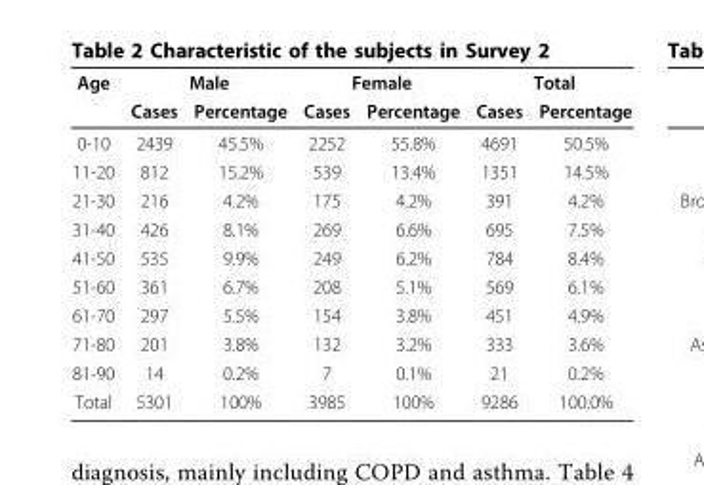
<table><thead><tr><td rowspan="2">Age</td><td colspan="2">Male</td><td colspan="2">Female</td><td colspan="2">Total</td></tr><tr><td>Cases</td><td>Percentage</td><td>Cases</td><td>Percentage</td><td>Cases</td><td>Percentage</td></tr></thead><tbody><tr><td>0-10</td><td>2439</td><td>45.5%</td><td>2252</td><td>55.8%</td><td>4691</td><td>50.5%</td></tr><tr><td>11-20</td><td>812</td><td>15.2%</td><td>539</td><td>13.4%</td><td>1351</td><td>14.5%</td></tr><tr><td>21-30</td><td>216</td><td>4.2%</td><td>175</td><td>4.2%</td><td>391</td><td>4.2%</td></tr><tr><td>31-40</td><td>426</td><td>8.1%</td><td>269</td><td>6.6%</td><td>695</td><td>7.5%</td></tr><tr><td>41-50</td><td>535</td><td>9.9%</td><td>249</td><td>6.2%</td><td>784</td><td>8.4%</td></tr><tr><td>51-60</td><td>361</td><td>6.7%</td><td>208</td><td>5.1%</td><td>569</td><td>6.1%</td></tr><tr><td>61-70</td><td>297</td><td>5.5%</td><td>154</td><td>3.8%</td><td>451</td><td>4.9%</td></tr><tr><td>71-80</td><td>201</td><td>3.8%</td><td>132</td><td>3.2%</td><td>333</td><td>3.6%</td></tr><tr><td>81-90</td><td>14</td><td>0.2%</td><td>7</td><td>0.1%</td><td>21</td><td>0.2%</td></tr><tr><td>Total</td><td>5301</td><td>100%</td><td>3985</td><td>100%</td><td>9286</td><td>100.0%</td></tr></tbody></table>